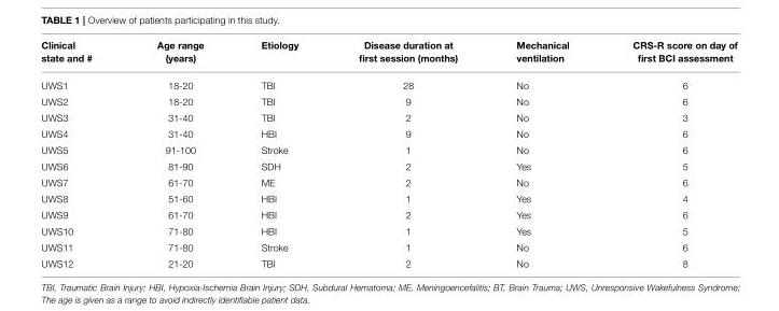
<table><thead><tr><td>Clinical state and #</td><td>Age range (years)</td><td>Etiology</td><td>Disease duration at first session (months)</td><td>Mechanical ventilation</td><td>CRS-R score on day of first BCI assessment</td></tr></thead><tbody><tr><td>UWS1</td><td>18-20</td><td>TBI</td><td>28</td><td>No</td><td>6</td></tr><tr><td>UWS2</td><td>18-20</td><td>TBI</td><td>9</td><td>No</td><td>6</td></tr><tr><td>UWS3</td><td>31-40</td><td>TBI</td><td>2</td><td>No</td><td>3</td></tr><tr><td>UWS4</td><td>31-40</td><td>HBI</td><td>9</td><td>No</td><td>6</td></tr><tr><td>UWS5</td><td>91-100</td><td>Stroke</td><td>1</td><td>No</td><td>6</td></tr><tr><td>UWS6</td><td>81-90</td><td>SDH</td><td>2</td><td>Yes</td><td>5</td></tr><tr><td>UWS7</td><td>61-70</td><td>ME</td><td>2</td><td>No</td><td>6</td></tr><tr><td>UWS8</td><td>51-60</td><td>HBI</td><td>1</td><td>Yes</td><td>4</td></tr><tr><td>UWS9</td><td>61-70</td><td>HBI</td><td>2</td><td>Yes</td><td>6</td></tr><tr><td>UWS10</td><td>71-80</td><td>HBI</td><td>1</td><td>Yes</td><td>5</td></tr><tr><td>UWS11</td><td>71-80</td><td>Stroke</td><td>1</td><td>No</td><td>6</td></tr><tr><td>UWS12</td><td>21-20</td><td>TBI</td><td>2</td><td>No</td><td>8</td></tr></tbody></table>